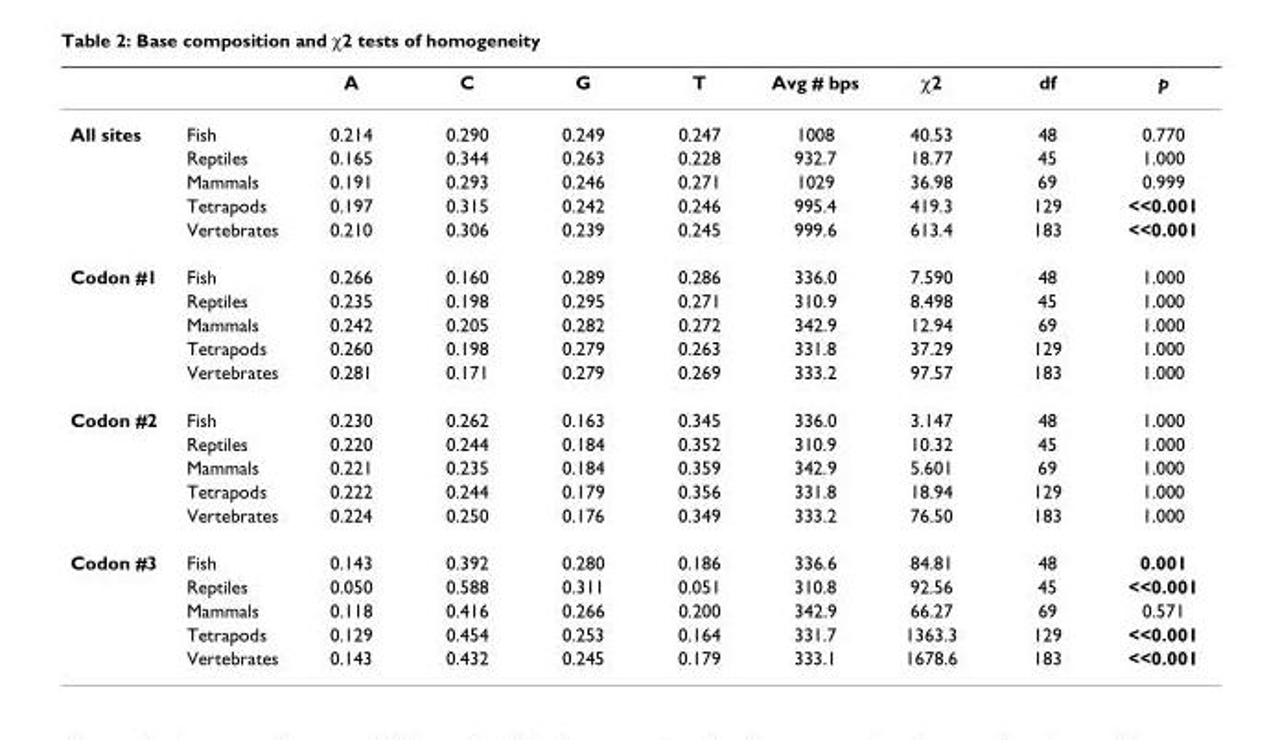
<table><thead><tr><td></td><td></td><td>A</td><td>C</td><td>G</td><td>T</td><td>Avg # bps</td><td>χ2</td><td>df</td><td>p</td></tr></thead><tbody><tr><td rowspan="5">All sites</td><td>Fish</td><td>0.214</td><td>0.290</td><td>0.249</td><td>0.247</td><td>1008</td><td>40.53</td><td>48</td><td>0.770</td></tr><tr><td>Reptiles</td><td>0.165</td><td>0.344</td><td>0.263</td><td>0.228</td><td>932.7</td><td>18.77</td><td>45</td><td>1.000</td></tr><tr><td>Mammals</td><td>0.191</td><td>0.293</td><td>0.246</td><td>0.271</td><td>1029</td><td>36.98</td><td>69</td><td>0.999</td></tr><tr><td>Tetrapods</td><td>0.197</td><td>0.315</td><td>0.242</td><td>0.246</td><td>995.4</td><td>419.3</td><td>129</td><td>&lt;&lt;0.001</td></tr><tr><td>Vertebrates</td><td>0.210</td><td>0.306</td><td>0.239</td><td>0.245</td><td>999.6</td><td>613.4</td><td>183</td><td>&lt;&lt;0.001</td></tr><tr><td rowspan="5">Codon #1</td><td>Fish</td><td>0.266</td><td>0.160</td><td>0.289</td><td>0.286</td><td>336.0</td><td>7.590</td><td>48</td><td>1.000</td></tr><tr><td>Reptiles</td><td>0.235</td><td>0.198</td><td>0.295</td><td>0.271</td><td>310.9</td><td>8.498</td><td>45</td><td>1.000</td></tr><tr><td>Mammals</td><td>0.242</td><td>0.205</td><td>0.282</td><td>0.272</td><td>342.9</td><td>12.94</td><td>69</td><td>1.000</td></tr><tr><td>Tetrapods</td><td>0.260</td><td>0.198</td><td>0.279</td><td>0.263</td><td>331.8</td><td>37.29</td><td>129</td><td>1.000</td></tr><tr><td>Vertebrates</td><td>0.281</td><td>0.171</td><td>0.279</td><td>0.269</td><td>333.2</td><td>97.57</td><td>183</td><td>1.000</td></tr><tr><td rowspan="5">Codon #2</td><td>Fish</td><td>0.230</td><td>0.262</td><td>0.163</td><td>0.345</td><td>336.0</td><td>3.147</td><td>48</td><td>1.000</td></tr><tr><td>Reptiles</td><td>0.220</td><td>0.244</td><td>0.184</td><td>0.352</td><td>310.9</td><td>10.32</td><td>45</td><td>1.000</td></tr><tr><td>Mammals</td><td>0.221</td><td>0.235</td><td>0.184</td><td>0.359</td><td>342.9</td><td>5.601</td><td>69</td><td>1.000</td></tr><tr><td>Tetrapods</td><td>0.222</td><td>0.244</td><td>0.179</td><td>0.356</td><td>331.8</td><td>18.94</td><td>129</td><td>1.000</td></tr><tr><td>Vertebrates</td><td>0.224</td><td>0.250</td><td>0.176</td><td>0.349</td><td>333.2</td><td>76.50</td><td>183</td><td>1.000</td></tr><tr><td rowspan="5">Codon #3</td><td>Fish</td><td>0.143</td><td>0.392</td><td>0.280</td><td>0.186</td><td>336.6</td><td>84.81</td><td>48</td><td>0.001</td></tr><tr><td>Reptiles</td><td>0.050</td><td>0.588</td><td>0.311</td><td>0.051</td><td>310.8</td><td>92.56</td><td>45</td><td>&lt;&lt;0.001</td></tr><tr><td>Mammals</td><td>0.118</td><td>0.416</td><td>0.266</td><td>0.200</td><td>342.9</td><td>66.27</td><td>69</td><td>0.571</td></tr><tr><td>Tetrapods</td><td>0.129</td><td>0.454</td><td>0.253</td><td>0.164</td><td>331.7</td><td>1363.3</td><td>129</td><td>&lt;&lt;0.001</td></tr><tr><td>Vertebrates</td><td>0.143</td><td>0.432</td><td>0.245</td><td>0.179</td><td>333.1</td><td>1678.6</td><td>183</td><td>&lt;&lt;0.001</td></tr></tbody></table>